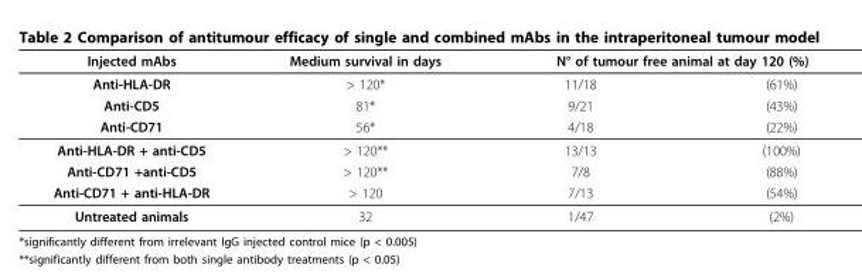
<table><thead><tr><td rowspan="2">Injected mAbs Anti-HLA-DR</td><td rowspan="2">Medium survival in days &gt; 120*</td><td colspan="2">N° of tumour free animal at day 120 (%)</td></tr><tr><td>11/18</td><td>(61%)</td></tr></thead><tbody><tr><td>Anti-CD5</td><td>81*</td><td>9/21</td><td>(43%)</td></tr><tr><td>Anti-CD71</td><td>56*</td><td>4/18</td><td>(22%)</td></tr><tr><td>Anti-HLA-DR + anti-CD5</td><td>&gt; 120**</td><td>13/13</td><td>(100%)</td></tr><tr><td>Anti-CD71 +anti-CD5</td><td>&gt; 120**</td><td>7/8</td><td>(88%)</td></tr><tr><td>Anti-CD71 + anti-HLA-DR</td><td>&gt; 120</td><td>7/13</td><td>(54%)</td></tr><tr><td>Untreated animals</td><td>32</td><td>1/47</td><td>(2%)</td></tr></tbody></table>